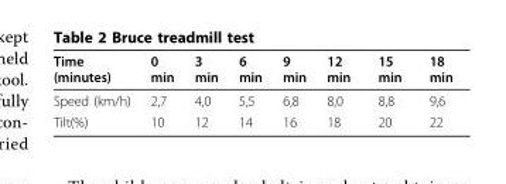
<table><thead><tr><td>Time (minutes)</td><td>0 min</td><td>3 min</td><td>6 min</td><td>9 min</td><td>12 min</td><td>15 min</td><td>18 min</td></tr></thead><tbody><tr><td>Speed (km/h)</td><td>2,7</td><td>4,0</td><td>5,5</td><td>6,8</td><td>8,0</td><td>8,8</td><td>9,6</td></tr><tr><td>Tilt(%)</td><td>10</td><td>12</td><td>14</td><td>16</td><td>18</td><td>20</td><td>22</td></tr></tbody></table>